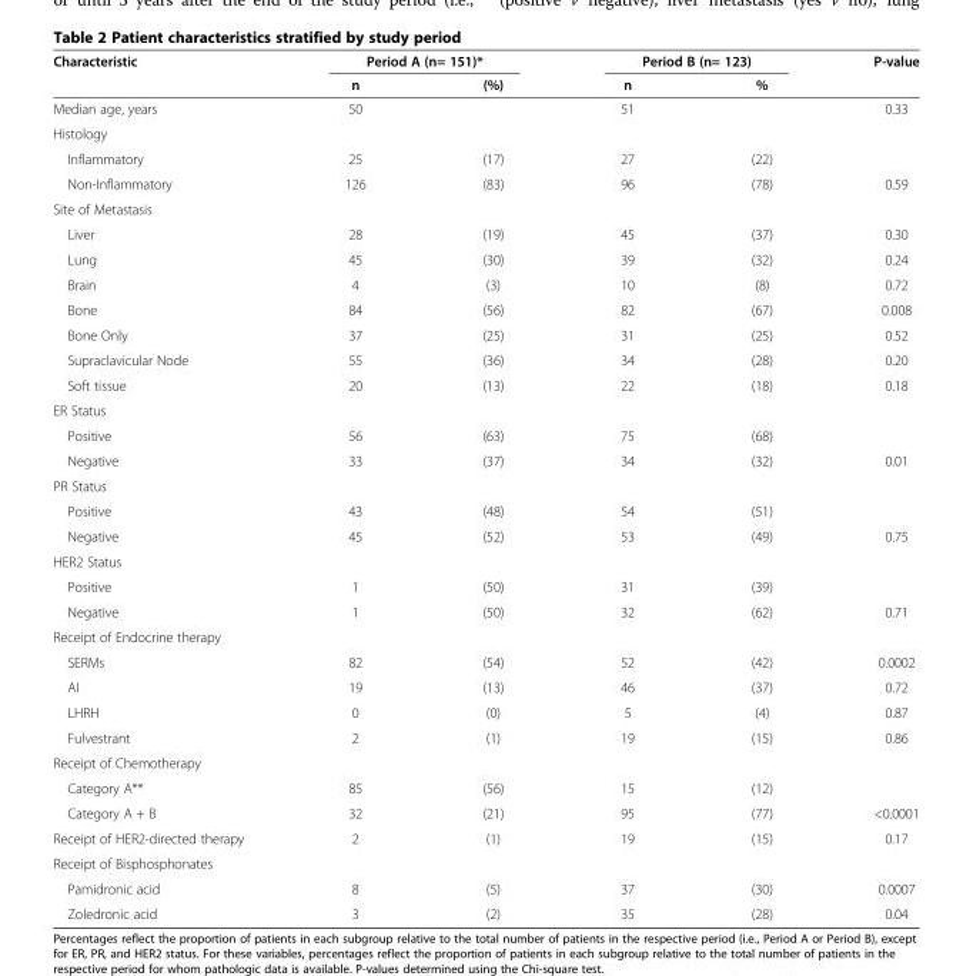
<table><thead><tr><td rowspan="2">Characteristic</td><td colspan="2">Period A (n= 151)*</td><td colspan="2">Period B (n= 123)</td><td rowspan="2">P-value</td></tr><tr><td>n</td><td>(%)</td><td>n</td><td>%</td></tr></thead><tbody><tr><td>Median age, years</td><td>50</td><td></td><td>51</td><td></td><td>0.33</td></tr><tr><td colspan="6">Histology</td></tr><tr><td>Inflammatory</td><td>25</td><td>(17)</td><td>27</td><td>(22)</td><td></td></tr><tr><td>Non-Inflammatory</td><td>126</td><td>(83)</td><td>96</td><td>(78)</td><td>0.59</td></tr><tr><td colspan="6">Site of Metastasis</td></tr><tr><td>Liver</td><td>28</td><td>(19)</td><td>45</td><td>(37)</td><td>0.30</td></tr><tr><td>Lung</td><td>45</td><td>(30)</td><td>39</td><td>(32)</td><td>0.24</td></tr><tr><td>Brain</td><td>4</td><td>(3)</td><td>10</td><td>(8)</td><td>0.72</td></tr><tr><td>Bone</td><td>84</td><td>(56)</td><td>82</td><td>(67)</td><td>0.008</td></tr><tr><td>Bone Only</td><td>37</td><td>(25)</td><td>31</td><td>(25)</td><td>0.52</td></tr><tr><td>Supraclavicular Node</td><td>55</td><td>(36)</td><td>34</td><td>(28)</td><td>0.20</td></tr><tr><td>Soft tissue</td><td>20</td><td>(13)</td><td>22</td><td>(18)</td><td>0.18</td></tr><tr><td colspan="6">ER Status</td></tr><tr><td>Positive</td><td>56</td><td>(63)</td><td>75</td><td>(68)</td><td></td></tr><tr><td>Negative</td><td>33</td><td>(37)</td><td>34</td><td>(32)</td><td>0.01</td></tr><tr><td colspan="6">PR Status</td></tr><tr><td>Positive</td><td>43</td><td>(48)</td><td>54</td><td>(51)</td><td></td></tr><tr><td>Negative</td><td>45</td><td>(52)</td><td>53</td><td>(49)</td><td>0.75</td></tr><tr><td colspan="6">HER2 Status</td></tr><tr><td>Positive</td><td>1</td><td>(50)</td><td>31</td><td>(39)</td><td></td></tr><tr><td>Negative</td><td>1</td><td>(50)</td><td>32</td><td>(62)</td><td>0.71</td></tr><tr><td colspan="6">Receipt of Endocrine therapy</td></tr><tr><td>SERMs</td><td>82</td><td>(54)</td><td>52</td><td>(42)</td><td>0.0002</td></tr><tr><td>AI</td><td>19</td><td>(13)</td><td>46</td><td>(37)</td><td>0.72</td></tr><tr><td>LHRH</td><td>0</td><td>(0)</td><td>5</td><td>(4)</td><td>0.87</td></tr><tr><td>Fulvestrant</td><td>2</td><td>(1)</td><td>19</td><td>(15)</td><td>0.86</td></tr><tr><td colspan="6">Receipt of Chemotherapy</td></tr><tr><td>Category A**</td><td>85</td><td>(56)</td><td>15</td><td>(12)</td><td></td></tr><tr><td>Category A + B</td><td>32</td><td>(21)</td><td>95</td><td>(77)</td><td>&lt;0.0001</td></tr><tr><td>Receipt of HER2-directed therapy</td><td>2</td><td>(1)</td><td>19</td><td>(15)</td><td>0.17</td></tr><tr><td colspan="6">Receipt of Bisphosphonates</td></tr><tr><td>Pamidronic acid</td><td>8</td><td>(5)</td><td>37</td><td>(30)</td><td>0.0007</td></tr><tr><td>Zoledronic acid</td><td>3</td><td>(2)</td><td>35</td><td>(28)</td><td>0.04</td></tr></tbody></table>